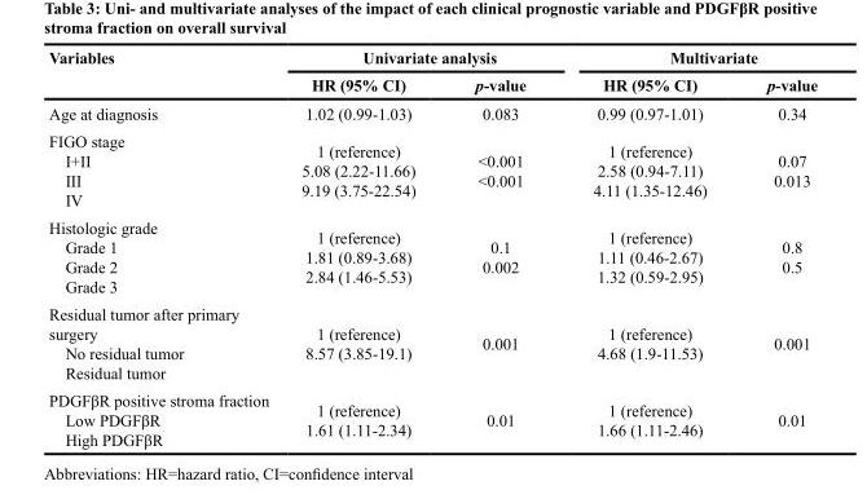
<table><thead><tr><td rowspan="2">Variables</td><td colspan="2">Univariate analysis</td><td colspan="2">Multivariate</td></tr><tr><td>HR (95% CI)</td><td>p-value</td><td>HR (95% CI)</td><td>p-value</td></tr></thead><tbody><tr><td>Age at diagnosis</td><td>1.02 (0.99-1.03)</td><td>0.083</td><td>0.99 (0.97-1.01)</td><td>0.34</td></tr><tr><td>FIGO stage I+II III IV</td><td>1 (reference) 5.08 (2.22-11.66) 9.19 (3.75-22.54)</td><td>&lt;0.001 &lt;0.001</td><td>1 (reference) 2.58 (0.94-7.11) 4.11 (1.35-12.46)</td><td>0.07 0.013</td></tr><tr><td>Histologic grade Grade 1 Grade 2 Grade 3</td><td>1 (reference) 1.81 (0.89-3.68) 2.84 (1.46-5.53)</td><td>0.1 0.002</td><td>1 (reference) 1.11 (0.46-2.67) 1.32 (0.59-2.95)</td><td>0.8 0.5</td></tr><tr><td>Residual tumor after primary surgery No residual tumor Residual tumor</td><td>1 (reference) 8.57 (3.85-19.1)</td><td>0.001</td><td>1 (reference) 4.68 (1.9-11.53)</td><td>0.001</td></tr><tr><td>PDGFβR positive stroma fraction Low PDGFβR High PDGFβR</td><td>1 (reference) 1.61 (1.11-2.34)</td><td>0.01</td><td>1 (reference) 1.66 (1.11-2.46)</td><td>0.01</td></tr></tbody></table>